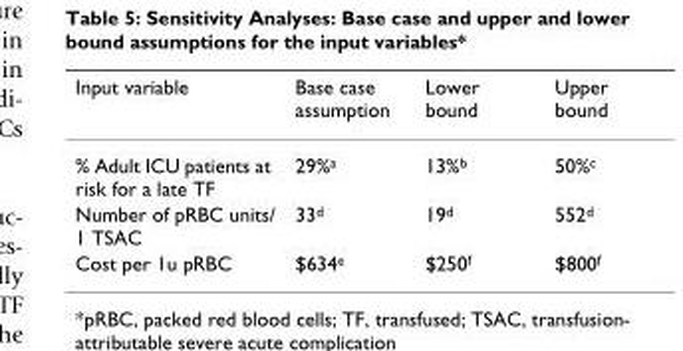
<table><thead><tr><td>Input variable</td><td>Base case assumption</td><td>Lower bound</td><td>Upper bound</td></tr></thead><tbody><tr><td>% Adult ICU patients at risk for a late TF</td><td>29%<sup>a</sup></td><td>13%<sup>b</sup></td><td>50%<sup>c</sup></td></tr><tr><td>Number of pRBC units/ 1 TSAC</td><td>33<sup>d</sup></td><td>19<sup>d</sup></td><td>552<sup>d</sup></td></tr><tr><td>Cost per 1u pRBC</td><td>$634<sup>e</sup></td><td>$250<sup>f</sup></td><td>$800<sup>f</sup></td></tr></tbody></table>